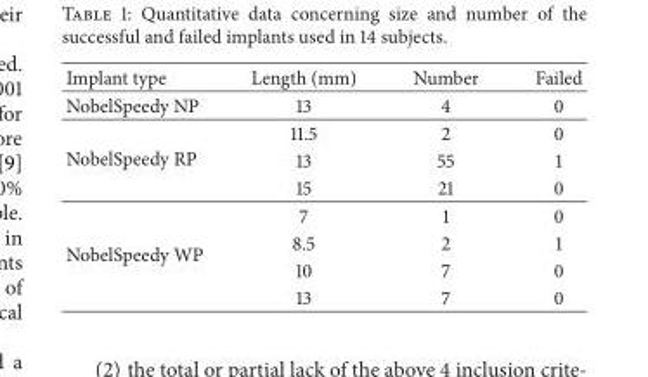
<table><thead><tr><td>Implant type</td><td>Length (mm)</td><td>Number</td><td>Failed</td></tr></thead><tbody><tr><td>NobelSpeedy NP</td><td>13</td><td>4</td><td>0</td></tr><tr><td rowspan="3">NobelSpeedy RP</td><td>11.5</td><td>2</td><td>0</td></tr><tr><td>13</td><td>55</td><td>1</td></tr><tr><td>15</td><td>21</td><td>0</td></tr><tr><td rowspan="4">NobelSpeedy WP</td><td>7</td><td>1</td><td>0</td></tr><tr><td>8.5</td><td>2</td><td>1</td></tr><tr><td>10</td><td>7</td><td>0</td></tr><tr><td>13</td><td>7</td><td>0</td></tr></tbody></table>